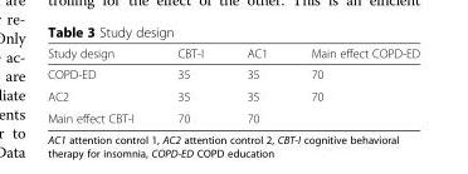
<table><thead><tr><td>Study design</td><td>CBT-I</td><td>AC1</td><td>Main effect COPD-ED</td></tr></thead><tbody><tr><td>COPD-ED</td><td>35</td><td>35</td><td>70</td></tr><tr><td>AC2</td><td>35</td><td>35</td><td>70</td></tr><tr><td>Main effect CBT-I</td><td>70</td><td>70</td><td></td></tr></tbody></table>